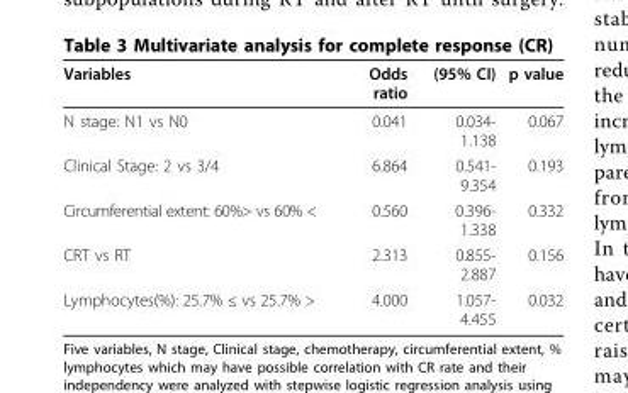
<table><thead><tr><td>Variables</td><td>Odds ratio</td><td>(95% CI)</td><td>p value</td></tr></thead><tbody><tr><td>N stage: N1 vs N0</td><td>0.041</td><td>0.034- 1.138</td><td>0.067</td></tr><tr><td>Clinical Stage: 2 vs 3/4</td><td>6.864</td><td>0.541- 9.354</td><td>0.193</td></tr><tr><td>Circumferential extent: 60%&gt; vs 60% &lt;</td><td>0.560</td><td>0.396- 1.338</td><td>0.332</td></tr><tr><td>CRT vs RT</td><td>2.313</td><td>0.855- 2.887</td><td>0.156</td></tr><tr><td>Lymphocytes(%): 25.7% ≤ vs 25.7% &gt;</td><td>4.000</td><td>1.057- 4.455</td><td>0.032</td></tr></tbody></table>